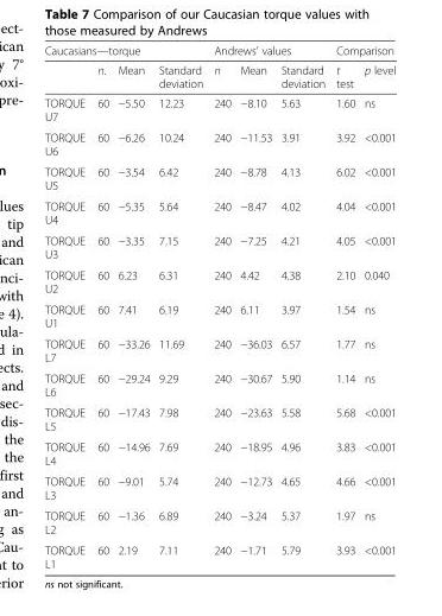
<table><thead><tr><td colspan="4">Caucasians—torque</td><td colspan="3">Andrews’ values</td><td colspan="2">Comparison</td></tr><tr><td></td><td>n.</td><td>Mean</td><td>Standard deviation</td><td>n</td><td>Mean</td><td>Standard deviation</td><td>t test</td><td>p level</td></tr></thead><tbody><tr><td>TORQUE U7</td><td>60</td><td>−5.50</td><td>12.23</td><td>240</td><td>−8.10</td><td>5.63</td><td>1.60</td><td>ns</td></tr><tr><td>TORQUE U6</td><td>60</td><td>−6.26</td><td>10.24</td><td>240</td><td>−11.53</td><td>3.91</td><td>3.92</td><td>&lt;0.001</td></tr><tr><td>TORQUE U5</td><td>60</td><td>−3.54</td><td>6.42</td><td>240</td><td>−8.78</td><td>4.13</td><td>6.02</td><td>&lt;0.001</td></tr><tr><td>TORQUE U4</td><td>60</td><td>−5.35</td><td>5.64</td><td>240</td><td>−8.47</td><td>4.02</td><td>4.04</td><td>&lt;0.001</td></tr><tr><td>TORQUE U3</td><td>60</td><td>−3.35</td><td>7.15</td><td>240</td><td>−7.25</td><td>4.21</td><td>4.05</td><td>&lt;0.001</td></tr><tr><td>TORQUE U2</td><td>60</td><td>6.23</td><td>6.31</td><td>240</td><td>4.42</td><td>4.38</td><td>2.10</td><td>0.040</td></tr><tr><td>TORQUE U1</td><td>60</td><td>7.41</td><td>6.19</td><td>240</td><td>6.11</td><td>3.97</td><td>1.54</td><td>ns</td></tr><tr><td>TORQUE L7</td><td>60</td><td>−33.26</td><td>11.69</td><td>240</td><td>−36.03</td><td>6.57</td><td>1.77</td><td>ns</td></tr><tr><td>TORQUE L6</td><td>60</td><td>−29.24</td><td>9.29</td><td>240</td><td>−30.67</td><td>5.90</td><td>1.14</td><td>ns</td></tr><tr><td>TORQUE L5</td><td>60</td><td>−17.43</td><td>7.98</td><td>240</td><td>−23.63</td><td>5.58</td><td>5.68</td><td>&lt;0.001</td></tr><tr><td>TORQUE L4</td><td>60</td><td>−14.96</td><td>7.69</td><td>240</td><td>−18.95</td><td>4.96</td><td>3.83</td><td>&lt;0.001</td></tr><tr><td>TORQUE L3</td><td>60</td><td>−9.01</td><td>5.74</td><td>240</td><td>−12.73</td><td>4.65</td><td>4.66</td><td>&lt;0.001</td></tr><tr><td>TORQUE L2</td><td>60</td><td>−1.36</td><td>6.89</td><td>240</td><td>−3.24</td><td>5.37</td><td>1.97</td><td>ns</td></tr><tr><td>TORQUE L1</td><td>60</td><td>2.19</td><td>7.11</td><td>240</td><td>−1.71</td><td>5.79</td><td>3.93</td><td>&lt;0.001</td></tr></tbody></table>